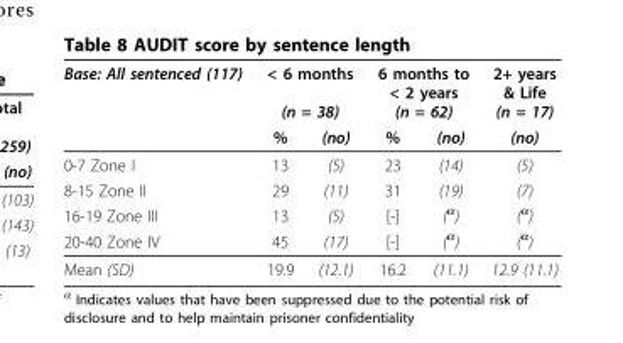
<table><thead><tr><td rowspan="2">Base: All sentenced (117)</td><td colspan="2">&lt; 6 months (n = 38)</td><td colspan="2">6 months to &lt; 2 years (n = 62)</td><td rowspan="2">2+ years &amp; Life (n = 17) (no)</td></tr><tr><td>%</td><td>(no)</td><td>%</td><td>(no)</td></tr></thead><tbody><tr><td>0-7 Zone I</td><td>13</td><td>(5)</td><td>23</td><td>(14)</td><td>(5)</td></tr><tr><td>8-15 Zone II</td><td>29</td><td>(11)</td><td>31</td><td>(19)</td><td>(7)</td></tr><tr><td>16-19 Zone III</td><td>13</td><td>(5)</td><td>[-]</td><td>(<sup>α</sup>)</td><td>(<sup>α</sup>)</td></tr><tr><td>20-40 Zone IV</td><td>45</td><td>(17)</td><td>[-]</td><td>(<sup>α</sup>)</td><td>(<sup>α</sup>)</td></tr><tr><td>Mean (SD)</td><td>19.9</td><td>(12.1)</td><td>16.2</td><td>(11.1)</td><td>12.9 (11.1)</td></tr></tbody></table>